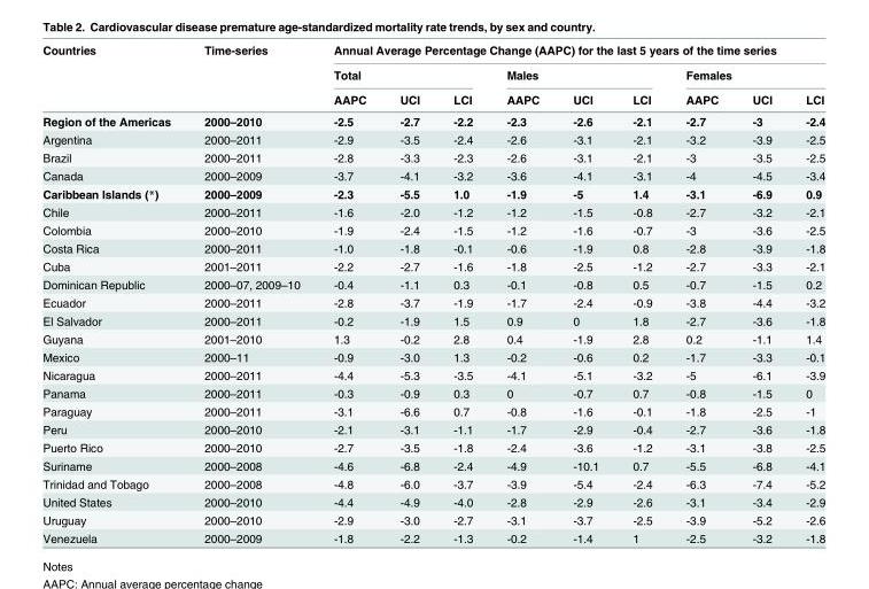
<table><thead><tr><td rowspan="3">Countries</td><td rowspan="3">Time-series</td><td colspan="9">Annual Average Percentage Change (AAPC) for the last 5 years of the time series</td></tr><tr><td colspan="3">Total</td><td colspan="3">Males</td><td colspan="3">Females</td></tr><tr><td>AAPC</td><td>UCI</td><td>LCI</td><td>AAPC</td><td>UCI</td><td>LCI</td><td>AAPC</td><td>UCI</td><td>LCI</td></tr></thead><tbody><tr><td>Region of the Americas</td><td>2000–2010</td><td>-2.5</td><td>-2.7</td><td>-2.2</td><td>-2.3</td><td>-2.6</td><td>-2.1</td><td>-2.7</td><td>-3</td><td>-2.4</td></tr><tr><td>Argentina</td><td>2000–2011</td><td>-2.9</td><td>-3.5</td><td>-2.4</td><td>-2.6</td><td>-3.1</td><td>-2.1</td><td>-3.2</td><td>-3.9</td><td>-2.5</td></tr><tr><td>Brazil</td><td>2000–2011</td><td>-2.8</td><td>-3.3</td><td>-2.3</td><td>-2.6</td><td>-3.1</td><td>-2.1</td><td>-3</td><td>-3.5</td><td>-2.5</td></tr><tr><td>Canada</td><td>2000–2009</td><td>-3.7</td><td>-4.1</td><td>-3.2</td><td>-3.6</td><td>-4.1</td><td>-3.1</td><td>-4</td><td>-4.5</td><td>-3.4</td></tr><tr><td>Caribbean Islands (*)</td><td>2000–2009</td><td>-2.3</td><td>-5.5</td><td>1.0</td><td>-1.9</td><td>-5</td><td>1.4</td><td>-3.1</td><td>-6.9</td><td>0.9</td></tr><tr><td>Chile</td><td>2000–2011</td><td>-1.6</td><td>-2.0</td><td>-1.2</td><td>-1.2</td><td>-1.5</td><td>-0.8</td><td>-2.7</td><td>-3.2</td><td>-2.1</td></tr><tr><td>Colombia</td><td>2000–2010</td><td>-1.9</td><td>-2.4</td><td>-1.5</td><td>-1.2</td><td>-1.6</td><td>-0.7</td><td>-3</td><td>-3.6</td><td>-2.5</td></tr><tr><td>Costa Rica</td><td>2000–2011</td><td>-1.0</td><td>-1.8</td><td>-0.1</td><td>-0.6</td><td>-1.9</td><td>0.8</td><td>-2.8</td><td>-3.9</td><td>-1.8</td></tr><tr><td>Cuba</td><td>2001–2011</td><td>-2.2</td><td>-2.7</td><td>-1.6</td><td>-1.8</td><td>-2.5</td><td>-1.2</td><td>-2.7</td><td>-3.3</td><td>-2.1</td></tr><tr><td>Dominican Republic</td><td>2000–07, 2009–10</td><td>-0.4</td><td>-1.1</td><td>0.3</td><td>-0.1</td><td>-0.8</td><td>0.5</td><td>-0.7</td><td>-1.5</td><td>0.2</td></tr><tr><td>Ecuador</td><td>2000–2011</td><td>-2.8</td><td>-3.7</td><td>-1.9</td><td>-1.7</td><td>-2.4</td><td>-0.9</td><td>-3.8</td><td>-4.4</td><td>-3.2</td></tr><tr><td>El Salvador</td><td>2000–2011</td><td>-0.2</td><td>-1.9</td><td>1.5</td><td>0.9</td><td>0</td><td>1.8</td><td>-2.7</td><td>-3.6</td><td>-1.8</td></tr><tr><td>Guyana</td><td>2001–2010</td><td>1.3</td><td>-0.2</td><td>2.8</td><td>0.4</td><td>-1.9</td><td>2.8</td><td>0.2</td><td>-1.1</td><td>1.4</td></tr><tr><td>Mexico</td><td>2000–11</td><td>-0.9</td><td>-3.0</td><td>1.3</td><td>-0.2</td><td>-0.6</td><td>0.2</td><td>-1.7</td><td>-3.3</td><td>-0.1</td></tr><tr><td>Nicaragua</td><td>2000–2011</td><td>-4.4</td><td>-5.3</td><td>-3.5</td><td>-4.1</td><td>-5.1</td><td>-3.2</td><td>-5</td><td>-6.1</td><td>-3.9</td></tr><tr><td>Panama</td><td>2000–2011</td><td>-0.3</td><td>-0.9</td><td>0.3</td><td>0</td><td>-0.7</td><td>0.7</td><td>-0.8</td><td>-1.5</td><td>0</td></tr><tr><td>Paraguay</td><td>2000–2011</td><td>-3.1</td><td>-6.6</td><td>0.7</td><td>-0.8</td><td>-1.6</td><td>-0.1</td><td>-1.8</td><td>-2.5</td><td>-1</td></tr><tr><td>Peru</td><td>2000–2010</td><td>-2.1</td><td>-3.1</td><td>-1.1</td><td>-1.7</td><td>-2.9</td><td>-0.4</td><td>-2.7</td><td>-3.6</td><td>-1.8</td></tr><tr><td>Puerto Rico</td><td>2000–2010</td><td>-2.7</td><td>-3.5</td><td>-1.8</td><td>-2.4</td><td>-3.6</td><td>-1.2</td><td>-3.1</td><td>-3.8</td><td>-2.5</td></tr><tr><td>Suriname</td><td>2000–2008</td><td>-4.6</td><td>-6.8</td><td>-2.4</td><td>-4.9</td><td>-10.1</td><td>0.7</td><td>-5.5</td><td>-6.8</td><td>-4.1</td></tr><tr><td>Trinidad and Tobago</td><td>2000–2008</td><td>-4.8</td><td>-6.0</td><td>-3.7</td><td>-3.9</td><td>-5.4</td><td>-2.4</td><td>-6.3</td><td>-7.4</td><td>-5.2</td></tr><tr><td>United States</td><td>2000–2010</td><td>-4.4</td><td>-4.9</td><td>-4.0</td><td>-2.8</td><td>-2.9</td><td>-2.6</td><td>-3.1</td><td>-3.4</td><td>-2.9</td></tr><tr><td>Uruguay</td><td>2000–2010</td><td>-2.9</td><td>-3.0</td><td>-2.7</td><td>-3.1</td><td>-3.7</td><td>-2.5</td><td>-3.9</td><td>-5.2</td><td>-2.6</td></tr><tr><td>Venezuela</td><td>2000–2009</td><td>-1.8</td><td>-2.2</td><td>-1.3</td><td>-0.2</td><td>-1.4</td><td>1</td><td>-2.5</td><td>-3.2</td><td>-1.8</td></tr></tbody></table>